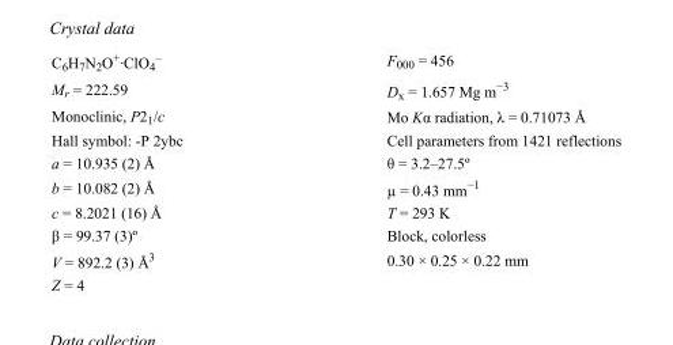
<table><tbody><tr><td>C<sub>6</sub>H<sub>7</sub>N<sub>2</sub>O<sup>+</sup>·ClO<sub>4</sub> <sup>–</sup></td><td>F000 = 456</td></tr><tr><td>M<sub>r</sub> = 222.59</td><td>D<sub>x</sub> = 1.657 Mg m<sup>−3</sup></td></tr><tr><td>Monoclinic, P2<sub>1</sub>/c</td><td>Mo Kα radiation, λ = 0.71073 Å</td></tr><tr><td>Hall symbol: -P 2ybc</td><td>Cell parameters from 1421 reflections</td></tr><tr><td>a = 10.935 (2) Å</td><td>θ = 3.2–27.5º</td></tr><tr><td>b = 10.082 (2) Å</td><td>µ = 0.43 mm<sup>−1</sup></td></tr><tr><td>c = 8.2021 (16) Å</td><td>T = 293 K</td></tr><tr><td>β = 99.37 (3)º</td><td>Block, colorless</td></tr><tr><td>V = 892.2 (3) Å<sup>3</sup></td><td>0.30 × 0.25 × 0.22 mm</td></tr><tr><td>Z = 4</td><td></td></tr></tbody></table>